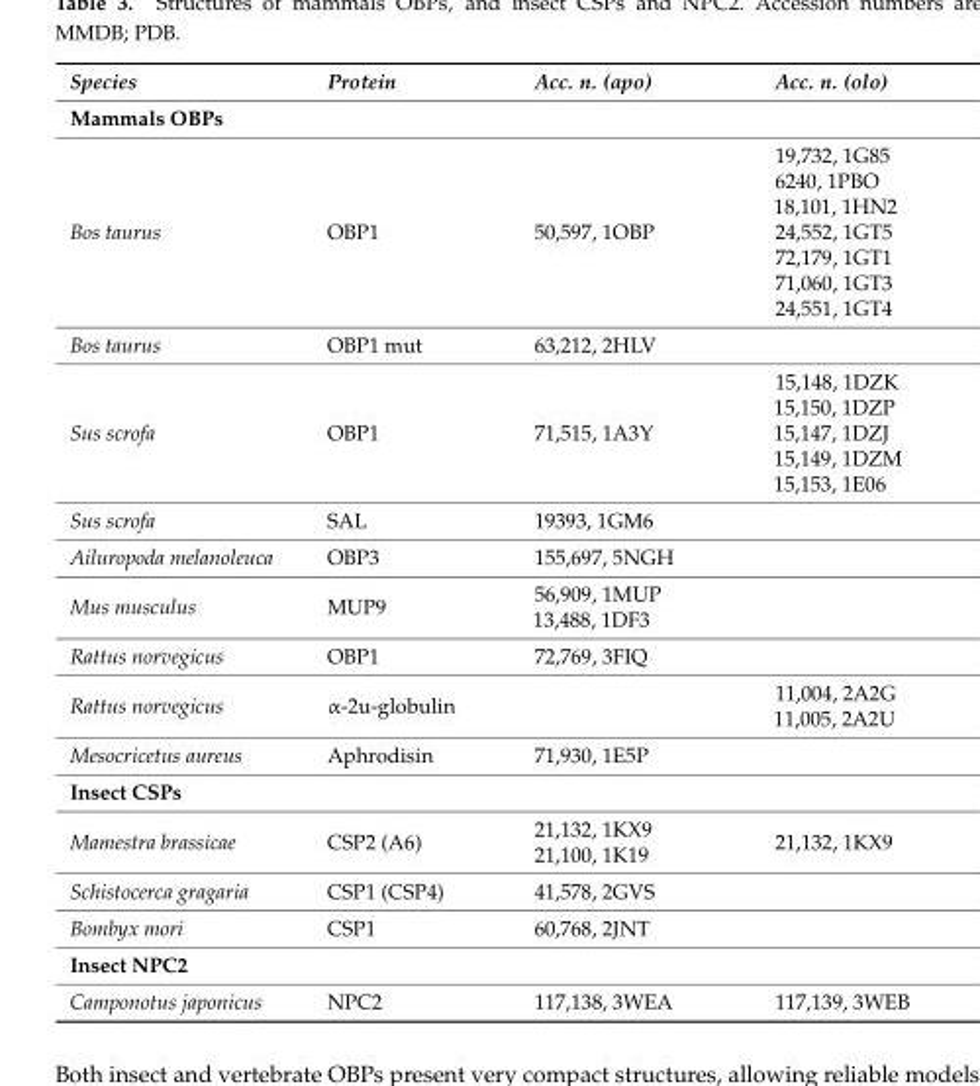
<table><thead><tr><td>Species</td><td>Protein</td><td>Acc. n. (apo)</td><td>Acc. n. (olo)</td></tr></thead><tbody><tr><td colspan="4">Mammals OBPs</td></tr><tr><td>Bos taurus</td><td>OBP1</td><td>50,597, 1OBP</td><td>19,732, 1G85 6240, 1PBO 18,101, 1HN2 24,552, 1GT5 72,179, 1GT1 71,060, 1GT3 24,551, 1GT4</td></tr><tr><td>Bos taurus</td><td>OBP1 mut</td><td>63,212, 2HLV</td><td></td></tr><tr><td>Sus scrofa</td><td>OBP1</td><td>71,515, 1A3Y</td><td>15,148, 1DZK 15,150, 1DZP 15,147, 1DZJ 15,149, 1DZM 15,153, 1E06</td></tr><tr><td>Sus scrofa</td><td>SAL</td><td>19393, 1GM6</td><td></td></tr><tr><td>Ailuropoda melanoleuca</td><td>OBP3</td><td>155,697, 5NGH</td><td></td></tr><tr><td>Mus musculus</td><td>MUP9</td><td>56,909, 1MUP 13,488, 1DF3</td><td></td></tr><tr><td>Rattus norvegicus</td><td>OBP1</td><td>72,769, 3FIQ</td><td></td></tr><tr><td>Rattus norvegicus</td><td>α-2u-globulin</td><td></td><td>11,004, 2A2G 11,005, 2A2U</td></tr><tr><td>Mesocricetus aureus</td><td>Aphrodisin</td><td>71,930, 1E5P</td><td></td></tr><tr><td colspan="4">Insect CSPs</td></tr><tr><td>Mamestra brassicae</td><td>CSP2 (A6)</td><td>21,132, 1KX9 21,100, 1K19</td><td>21,132, 1KX9</td></tr><tr><td>Schistocerca gragaria</td><td>CSP1 (CSP4)</td><td>41,578, 2GVS</td><td></td></tr><tr><td>Bombyx mori</td><td>CSP1</td><td>60,768, 2JNT</td><td></td></tr><tr><td colspan="4">Insect NPC2</td></tr><tr><td>Camponotus japonicus</td><td>NPC2</td><td>117,138, 3WEA</td><td>117,139, 3WEB</td></tr></tbody></table>